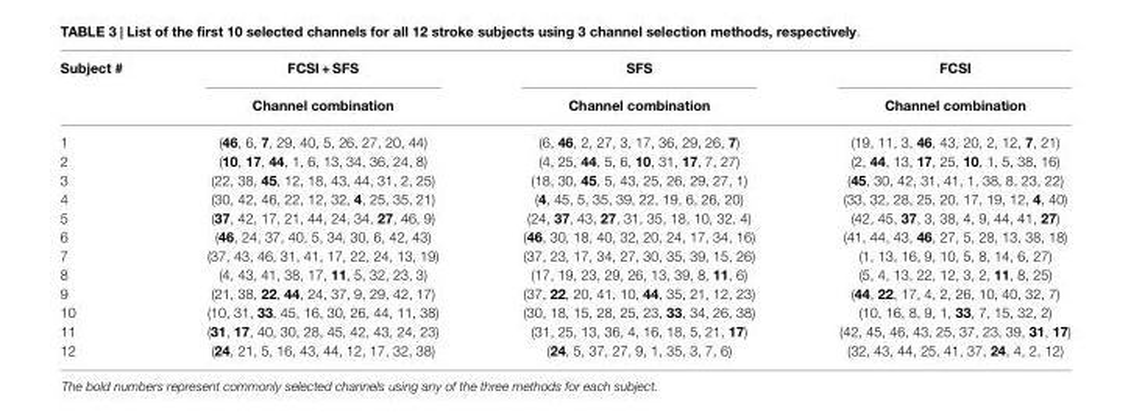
<table><thead><tr><td rowspan="2">Subject #</td><td rowspan="2">FCSI + SFS Channel combination</td><td rowspan="2">SFS Channel combination</td><td rowspan="2">FCSI Channel combination</td></tr><tr></tr></thead><tbody><tr><td>1</td><td>(46, 6, 7, 29, 40, 5, 26, 27, 20, 44)</td><td>(6, 46, 2, 27, 3, 17, 36, 29, 26, 7)</td><td>(19, 11, 3, 46, 43, 20, 2, 12, 7, 21)</td></tr><tr><td>2</td><td>(10, 17, 44, 1, 6, 13, 34, 36, 24, 8)</td><td>(4, 25, 44, 5, 6, 10, 31, 17, 7, 27)</td><td>(2, 44, 13, 17, 25, 10, 1, 5, 38, 16)</td></tr><tr><td>3</td><td>(22, 38, 45, 12, 18, 43, 44, 31, 2, 25)</td><td>(18, 30, 45, 5, 43, 25, 26, 29, 27, 1)</td><td>(45, 30, 42, 31, 41, 1, 38, 8, 23, 22)</td></tr><tr><td>4</td><td>(30, 42, 46, 22, 12, 32, 4, 25, 35, 21)</td><td>(4, 45, 5, 35, 39, 22, 19, 6, 26, 20)</td><td>(33, 32, 28, 25, 20, 17, 19, 12, 4, 40)</td></tr><tr><td>5</td><td>(37, 42, 17, 21, 44, 24, 34, 27, 46, 9)</td><td>(24, 37, 43, 27, 31, 35, 18, 10, 32, 4)</td><td>(42, 45, 37, 3, 38, 4, 9, 44, 41, 27)</td></tr><tr><td>6</td><td>(46, 24, 37, 40, 5, 34, 30, 6, 42, 43)</td><td>(46, 30, 18, 40, 32, 20, 24, 17, 34, 16)</td><td>(41, 44, 43, 46, 27, 5, 28, 13, 38, 18)</td></tr><tr><td>7</td><td>(37, 43, 46, 31, 41, 17, 22, 24, 13, 19)</td><td>(37, 23, 17, 34, 27, 30, 35, 39, 15, 26)</td><td>(1, 13, 16, 9, 10, 5, 8, 14, 6, 27)</td></tr><tr><td>8</td><td>(4, 43, 41, 38, 17, 11, 5, 32, 23, 3)</td><td>(17, 19, 23, 29, 26, 13, 39, 8, 11, 6)</td><td>(5, 4, 13, 22, 12, 3, 2, 11, 8, 25)</td></tr><tr><td>9</td><td>(21, 38, 22, 44, 24, 37, 9, 29, 42, 17)</td><td>(37, 22, 20, 41, 10, 44, 35, 21, 12, 23)</td><td>(44, 22, 17, 4, 2, 26, 10, 40, 32, 7)</td></tr><tr><td>10</td><td>(10, 31, 33, 45, 16, 30, 26, 44, 11, 38)</td><td>(30, 18, 15, 28, 25, 23, 33, 34, 26, 38)</td><td>(10, 16, 8, 9, 1, 33, 7, 15, 32, 2)</td></tr><tr><td>11</td><td>(31, 17, 40, 30, 28, 45, 42, 43, 24, 23)</td><td>(31, 25, 13, 36, 4, 16, 18, 5, 21, 17)</td><td>(42, 45, 46, 43, 25, 37, 23, 39, 31, 17)</td></tr><tr><td>12</td><td>(24, 21, 5, 16, 43, 44, 12, 17, 32, 38)</td><td>(24, 5, 37, 27, 9, 1, 35, 3, 7, 6)</td><td>(32, 43, 44, 25, 41, 37, 24, 4, 2, 12)</td></tr></tbody></table>